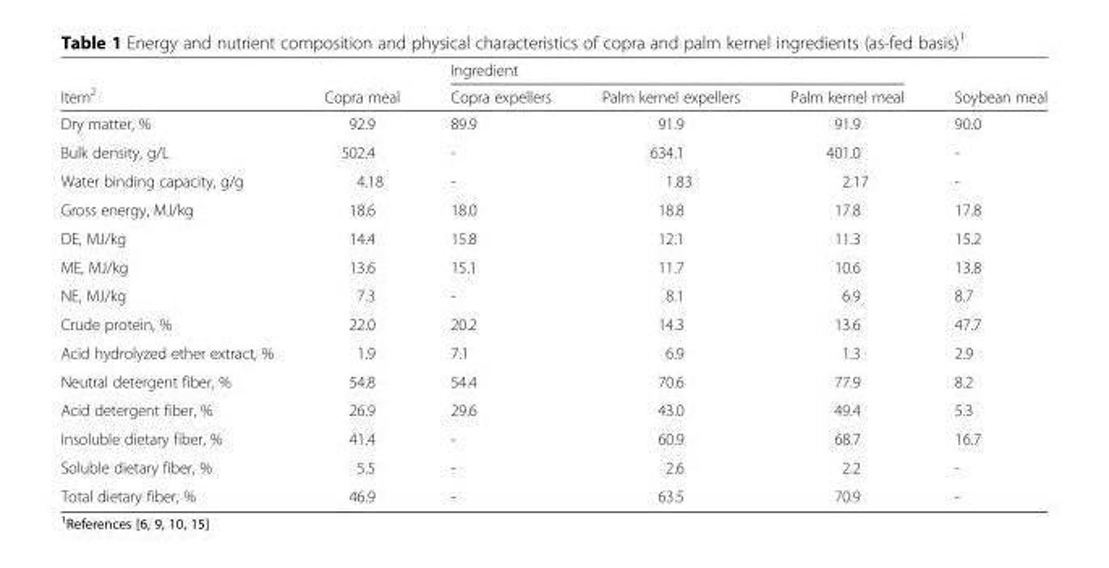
<table><thead><tr><td rowspan="2">Item<sup>2</sup></td><td rowspan="2">Copra meal</td><td colspan="3">Ingredient</td><td rowspan="2">Soybean meal</td></tr><tr><td>Copra expellers</td><td>Palm kernel expellers</td><td>Palm kernel meal</td></tr></thead><tbody><tr><td>Dry matter, %</td><td>92.9</td><td>89.9</td><td>91.9</td><td>91.9</td><td>90.0</td></tr><tr><td>Bulk density, g/L</td><td>502.4</td><td>-</td><td>634.1</td><td>401.0</td><td>-</td></tr><tr><td>Water binding capacity, g/g</td><td>4.18</td><td>-</td><td>1.83</td><td>2.17</td><td>-</td></tr><tr><td>Gross energy, MJ/kg</td><td>18.6</td><td>18.0</td><td>18.8</td><td>17.8</td><td>17.8</td></tr><tr><td>DE, MJ/kg</td><td>14.4</td><td>15.8</td><td>12.1</td><td>11.3</td><td>15.2</td></tr><tr><td>ME, MJ/kg</td><td>13.6</td><td>15.1</td><td>11.7</td><td>10.6</td><td>13.8</td></tr><tr><td>NE, MJ/kg</td><td>7.3</td><td>-</td><td>8.1</td><td>6.9</td><td>8.7</td></tr><tr><td>Crude protein, %</td><td>22.0</td><td>20.2</td><td>14.3</td><td>13.6</td><td>47.7</td></tr><tr><td>Acid hydrolyzed ether extract, %</td><td>1.9</td><td>7.1</td><td>6.9</td><td>1.3</td><td>2.9</td></tr><tr><td>Neutral detergent fiber, %</td><td>54.8</td><td>54.4</td><td>70.6</td><td>77.9</td><td>8.2</td></tr><tr><td>Acid detergent fiber, %</td><td>26.9</td><td>29.6</td><td>43.0</td><td>49.4</td><td>5.3</td></tr><tr><td>Insoluble dietary fiber, %</td><td>41.4</td><td>-</td><td>60.9</td><td>68.7</td><td>16.7</td></tr><tr><td>Soluble dietary fiber, %</td><td>5.5</td><td>-</td><td>2.6</td><td>2.2</td><td>-</td></tr><tr><td>Total dietary fiber, %</td><td>46.9</td><td>-</td><td>63.5</td><td>70.9</td><td>-</td></tr></tbody></table>